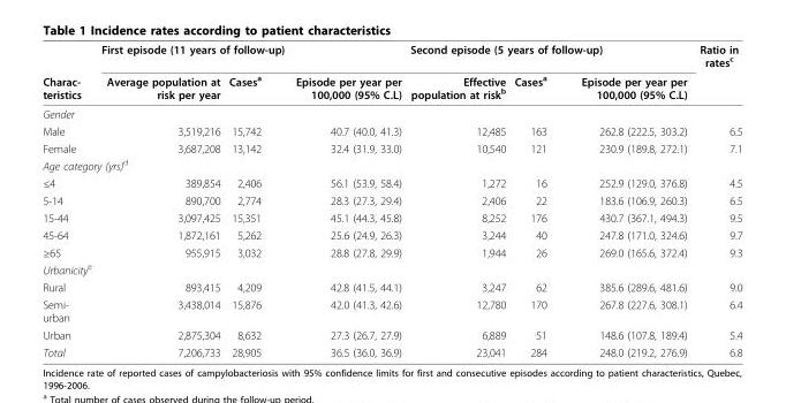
<table><thead><tr><td rowspan="2">Charac- teristics</td><td colspan="3">First episode (11 years of follow-up)</td><td colspan="3">Second episode (5 years of follow-up)</td><td rowspan="2">Ratio in rates<sup>c</sup></td></tr><tr><td>Average population at risk per year</td><td>Cases<sup>a</sup></td><td>Episode per year per 100,000 (95% C.L)</td><td>Effective population at risk<sup>b</sup></td><td>Cases<sup>a</sup></td><td>Episode per year per 100,000 (95% C.L)</td></tr></thead><tbody><tr><td colspan="8">Gender</td></tr><tr><td>Male</td><td>3,519,216</td><td>15,742</td><td>40.7 (40.0, 41.3)</td><td>12,485</td><td>163</td><td>262.8 (222.5, 303.2)</td><td>6.5</td></tr><tr><td>Female</td><td>3,687,208</td><td>13,142</td><td>32.4 (31.9, 33.0)</td><td>10,540</td><td>121</td><td>230.9 (189.8, 272.1)</td><td>7.1</td></tr><tr><td colspan="8">Age category (yrs)<sup>d</sup></td></tr><tr><td>≤4</td><td>389,854</td><td>2,406</td><td>56.1 (53.9, 58.4)</td><td>1,272</td><td>16</td><td>252.9 (129.0, 376.8)</td><td>4.5</td></tr><tr><td>5-14</td><td>890,700</td><td>2,774</td><td>28.3 (27.3, 29.4)</td><td>2,406</td><td>22</td><td>183.6 (106.9, 260.3)</td><td>6.5</td></tr><tr><td>15-44</td><td>3,097,425</td><td>15,351</td><td>45.1 (44.3, 45.8)</td><td>8,252</td><td>176</td><td>430.7 (367.1, 494.3)</td><td>9.5</td></tr><tr><td>45-64</td><td>1,872,161</td><td>5,262</td><td>25.6 (24.9, 26.3)</td><td>3,244</td><td>40</td><td>247.8 (171.0, 324.6)</td><td>9.7</td></tr><tr><td>≥65</td><td>955,915</td><td>3,032</td><td>28.8 (27.8, 29.9)</td><td>1,944</td><td>26</td><td>269.0 (165.6, 372.4)</td><td>9.3</td></tr><tr><td colspan="8">Urbanicity<sup>e</sup></td></tr><tr><td>Rural</td><td>893,415</td><td>4,209</td><td>42.8 (41.5, 44.1)</td><td>3,247</td><td>62</td><td>385.6 (289.6, 481.6)</td><td>9.0</td></tr><tr><td>Semi- urban</td><td>3,438,014</td><td>15,876</td><td>42.0 (41.3, 42.6)</td><td>12,780</td><td>170</td><td>267.8 (227.6, 308.1)</td><td>6.4</td></tr><tr><td>Urban</td><td>2,875,304</td><td>8,632</td><td>27.3 (26.7, 27.9)</td><td>6,889</td><td>51</td><td>148.6 (107.8, 189.4)</td><td>5.4</td></tr><tr><td>Total</td><td>7,206,733</td><td>28,905</td><td>36.5 (36.0, 36.9)</td><td>23,041</td><td>284</td><td>248.0 (219.2, 276.9)</td><td>6.8</td></tr></tbody></table>